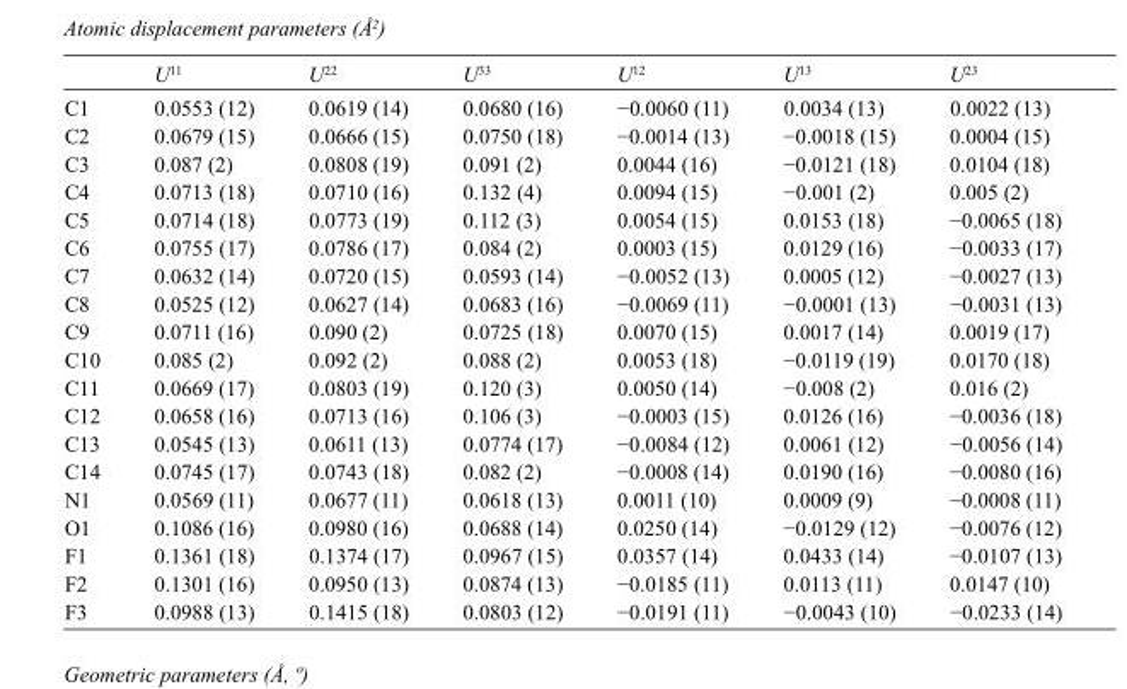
<table><thead><tr><td></td><td>U<sup>11</sup></td><td>U<sup>22</sup></td><td>U<sup>33</sup></td><td>U<sup>12</sup></td><td>U<sup>13</sup></td><td>U<sup>23</sup></td></tr></thead><tbody><tr><td>C1</td><td>0.0553 (12)</td><td>0.0619 (14)</td><td>0.0680 (16)</td><td>−0.0060 (11)</td><td>0.0034 (13)</td><td>0.0022 (13)</td></tr><tr><td>C2</td><td>0.0679 (15)</td><td>0.0666 (15)</td><td>0.0750 (18)</td><td>−0.0014 (13)</td><td>−0.0018 (15)</td><td>0.0004 (15)</td></tr><tr><td>C3</td><td>0.087 (2)</td><td>0.0808 (19)</td><td>0.091 (2)</td><td>0.0044 (16)</td><td>−0.0121 (18)</td><td>0.0104 (18)</td></tr><tr><td>C4</td><td>0.0713 (18)</td><td>0.0710 (16)</td><td>0.132 (4)</td><td>0.0094 (15)</td><td>−0.001 (2)</td><td>0.005 (2)</td></tr><tr><td>C5</td><td>0.0714 (18)</td><td>0.0773 (19)</td><td>0.112 (3)</td><td>0.0054 (15)</td><td>0.0153 (18)</td><td>−0.0065 (18)</td></tr><tr><td>C6</td><td>0.0755 (17)</td><td>0.0786 (17)</td><td>0.084 (2)</td><td>0.0003 (15)</td><td>0.0129 (16)</td><td>−0.0033 (17)</td></tr><tr><td>C7</td><td>0.0632 (14)</td><td>0.0720 (15)</td><td>0.0593 (14)</td><td>−0.0052 (13)</td><td>0.0005 (12)</td><td>−0.0027 (13)</td></tr><tr><td>C8</td><td>0.0525 (12)</td><td>0.0627 (14)</td><td>0.0683 (16)</td><td>−0.0069 (11)</td><td>−0.0001 (13)</td><td>−0.0031 (13)</td></tr><tr><td>C9</td><td>0.0711 (16)</td><td>0.090 (2)</td><td>0.0725 (18)</td><td>0.0070 (15)</td><td>0.0017 (14)</td><td>0.0019 (17)</td></tr><tr><td>C10</td><td>0.085 (2)</td><td>0.092 (2)</td><td>0.088 (2)</td><td>0.0053 (18)</td><td>−0.0119 (19)</td><td>0.0170 (18)</td></tr><tr><td>C11</td><td>0.0669 (17)</td><td>0.0803 (19)</td><td>0.120 (3)</td><td>0.0050 (14)</td><td>−0.008 (2)</td><td>0.016 (2)</td></tr><tr><td>C12</td><td>0.0658 (16)</td><td>0.0713 (16)</td><td>0.106 (3)</td><td>−0.0003 (15)</td><td>0.0126 (16)</td><td>−0.0036 (18)</td></tr><tr><td>C13</td><td>0.0545 (13)</td><td>0.0611 (13)</td><td>0.0774 (17)</td><td>−0.0084 (12)</td><td>0.0061 (12)</td><td>−0.0056 (14)</td></tr><tr><td>C14</td><td>0.0745 (17)</td><td>0.0743 (18)</td><td>0.082 (2)</td><td>−0.0008 (14)</td><td>0.0190 (16)</td><td>−0.0080 (16)</td></tr><tr><td>N1</td><td>0.0569 (11)</td><td>0.0677 (11)</td><td>0.0618 (13)</td><td>0.0011 (10)</td><td>0.0009 (9)</td><td>−0.0008 (11)</td></tr><tr><td>O1</td><td>0.1086 (16)</td><td>0.0980 (16)</td><td>0.0688 (14)</td><td>0.0250 (14)</td><td>−0.0129 (12)</td><td>−0.0076 (12)</td></tr><tr><td>F1</td><td>0.1361 (18)</td><td>0.1374 (17)</td><td>0.0967 (15)</td><td>0.0357 (14)</td><td>0.0433 (14)</td><td>−0.0107 (13)</td></tr><tr><td>F2</td><td>0.1301 (16)</td><td>0.0950 (13)</td><td>0.0874 (13)</td><td>−0.0185 (11)</td><td>0.0113 (11)</td><td>0.0147 (10)</td></tr><tr><td>F3</td><td>0.0988 (13)</td><td>0.1415 (18)</td><td>0.0803 (12)</td><td>−0.0191 (11)</td><td>−0.0043 (10)</td><td>−0.0233 (14)</td></tr></tbody></table>